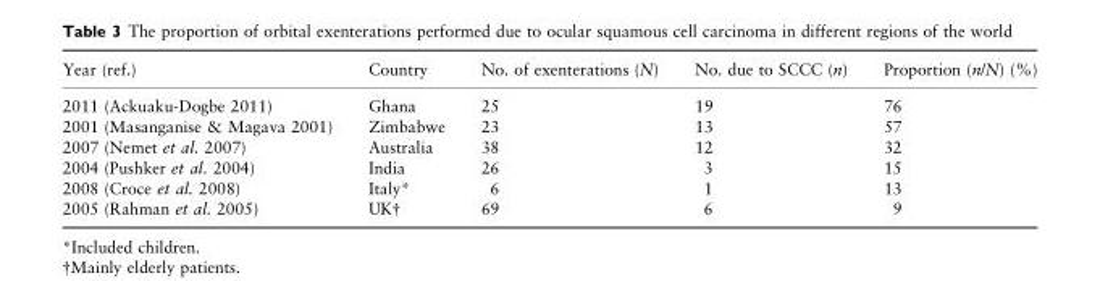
<table><thead><tr><td>Year (ref.)</td><td>Country</td><td>No. of exenterations (N)</td><td>No. due to SCCC (n)</td><td>Proportion (n/N) (%)</td></tr></thead><tbody><tr><td>2011 (Ackuaku-Dogbe 2011)</td><td>Ghana</td><td>25</td><td>19</td><td>76</td></tr><tr><td>2001 (Masanganise &amp; Magava 2001)</td><td>Zimbabwe</td><td>23</td><td>13</td><td>57</td></tr><tr><td>2007 (Nemet et al. 2007)</td><td>Australia</td><td>38</td><td>12</td><td>32</td></tr><tr><td>2004 (Pushker et al. 2004)</td><td>India</td><td>26</td><td>3</td><td>15</td></tr><tr><td>2008 (Croce et al. 2008)</td><td>Italy*</td><td>6</td><td>1</td><td>13</td></tr><tr><td>2005 (Rahman et al. 2005)</td><td>UK†</td><td>69</td><td>6</td><td>9</td></tr></tbody></table>